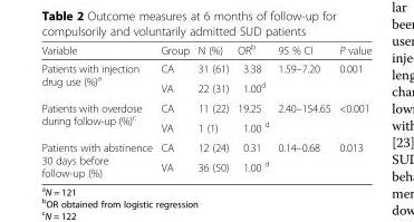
<table><thead><tr><td>Variable</td><td>Group</td><td>N (%)</td><td>OR<sup>b</sup></td><td>95 % CI</td><td>P value</td></tr></thead><tbody><tr><td rowspan="2">Patients with injection drug use (%)<sup>a</sup></td><td>CA</td><td>31 (61)</td><td>3.38</td><td rowspan="2">1.59–7.20</td><td rowspan="2">0.001</td></tr><tr><td>VA</td><td>22 (31)</td><td>1.00<sup>d</sup></td></tr><tr><td rowspan="2">Patients with overdose during follow-up (%)<sup>c</sup></td><td>CA</td><td>11 (22)</td><td>19.25</td><td rowspan="2">2.40–154.65</td><td rowspan="2">&lt;0.001</td></tr><tr><td>VA</td><td>1 (1)</td><td>1.00 <sup>d</sup></td></tr><tr><td rowspan="2">Patients with abstinence 30 days before follow-up (%)</td><td>CA</td><td>12 (24)</td><td>0.31</td><td rowspan="2">0.14–0.68</td><td rowspan="2">0.013</td></tr><tr><td>VA</td><td>36 (50)</td><td>1.00 <sup>d</sup></td></tr></tbody></table>